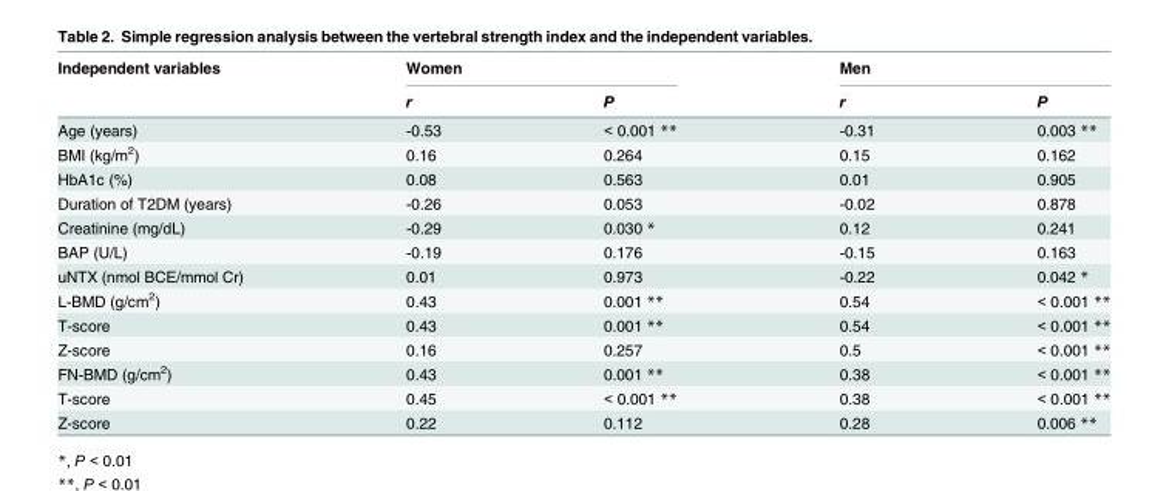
<table><thead><tr><td rowspan="2">Independent variables</td><td colspan="2">Women</td><td colspan="2">Men</td></tr><tr><td>r</td><td>P</td><td>r</td><td>P</td></tr></thead><tbody><tr><td>Age (years)</td><td>-0.53</td><td>&lt; 0.001 **</td><td>-0.31</td><td>0.003 **</td></tr><tr><td>BMI (kg/m<sup>2</sup>)</td><td>0.16</td><td>0.264</td><td>0.15</td><td>0.162</td></tr><tr><td>HbA1c (%)</td><td>0.08</td><td>0.563</td><td>0.01</td><td>0.905</td></tr><tr><td>Duration of T2DM (years)</td><td>-0.26</td><td>0.053</td><td>-0.02</td><td>0.878</td></tr><tr><td>Creatinine (mg/dL)</td><td>-0.29</td><td>0.030 *</td><td>0.12</td><td>0.241</td></tr><tr><td>BAP (U/L)</td><td>-0.19</td><td>0.176</td><td>-0.15</td><td>0.163</td></tr><tr><td>uNTX (nmol BCE/mmol Cr)</td><td>0.01</td><td>0.973</td><td>-0.22</td><td>0.042 *</td></tr><tr><td>L-BMD (g/cm<sup>2</sup>)</td><td>0.43</td><td>0.001 **</td><td>0.54</td><td>&lt; 0.001 **</td></tr><tr><td>T-score</td><td>0.43</td><td>0.001 **</td><td>0.54</td><td>&lt; 0.001 **</td></tr><tr><td>Z-score</td><td>0.16</td><td>0.257</td><td>0.5</td><td>&lt; 0.001 **</td></tr><tr><td>FN-BMD (g/cm<sup>2</sup>)</td><td>0.43</td><td>0.001 **</td><td>0.38</td><td>&lt; 0.001 **</td></tr><tr><td>T-score</td><td>0.45</td><td>&lt; 0.001 **</td><td>0.38</td><td>&lt; 0.001 **</td></tr><tr><td>Z-score</td><td>0.22</td><td>0.112</td><td>0.28</td><td>0.006 **</td></tr></tbody></table>